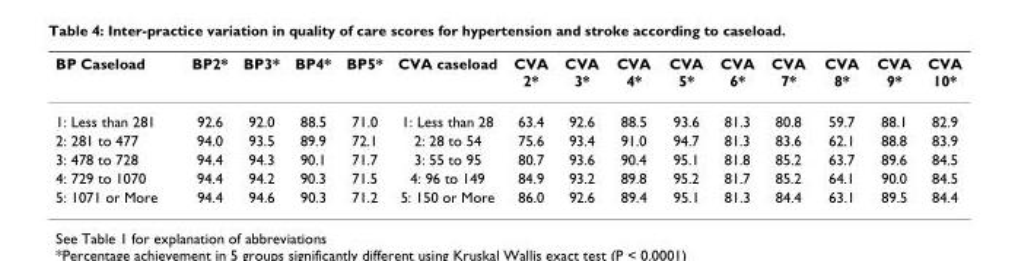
<table><thead><tr><td>BP Caseload</td><td>BP2*</td><td>BP3*</td><td>BP4*</td><td>BP5*</td><td>CVA caseload</td><td>CVA 2*</td><td>CVA 3*</td><td>CVA 4*</td><td>CVA 5*</td><td>CVA 6*</td><td>CVA 7*</td><td>CVA 8*</td><td>CVA 9*</td><td>CVA 10*</td></tr></thead><tbody><tr><td>1: Less than 281</td><td>92.6</td><td>92.0</td><td>88.5</td><td>71.0</td><td>1: Less than 28</td><td>63.4</td><td>92.6</td><td>88.5</td><td>93.6</td><td>81.3</td><td>80.8</td><td>59.7</td><td>88.1</td><td>82.9</td></tr><tr><td>2: 281 to 477</td><td>94.0</td><td>93.5</td><td>89.9</td><td>72.1</td><td>2: 28 to 54</td><td>75.6</td><td>93.4</td><td>91.0</td><td>94.7</td><td>81.3</td><td>83.6</td><td>62.1</td><td>88.8</td><td>83.9</td></tr><tr><td>3: 478 to 728</td><td>94.4</td><td>94.3</td><td>90.1</td><td>71.7</td><td>3: 55 to 95</td><td>80.7</td><td>93.6</td><td>90.4</td><td>95.1</td><td>81.8</td><td>85.2</td><td>63.7</td><td>89.6</td><td>84.5</td></tr><tr><td>4: 729 to 1070</td><td>94.4</td><td>94.2</td><td>90.3</td><td>71.5</td><td>4: 96 to 149</td><td>84.9</td><td>93.2</td><td>89.8</td><td>95.2</td><td>81.7</td><td>85.2</td><td>64.1</td><td>90.0</td><td>84.5</td></tr><tr><td>5: 1071 or More</td><td>94.4</td><td>94.6</td><td>90.3</td><td>71.2</td><td>5: 150 or More</td><td>86.0</td><td>92.6</td><td>89.4</td><td>95.1</td><td>81.3</td><td>84.4</td><td>63.1</td><td>89.5</td><td>84.4</td></tr></tbody></table>